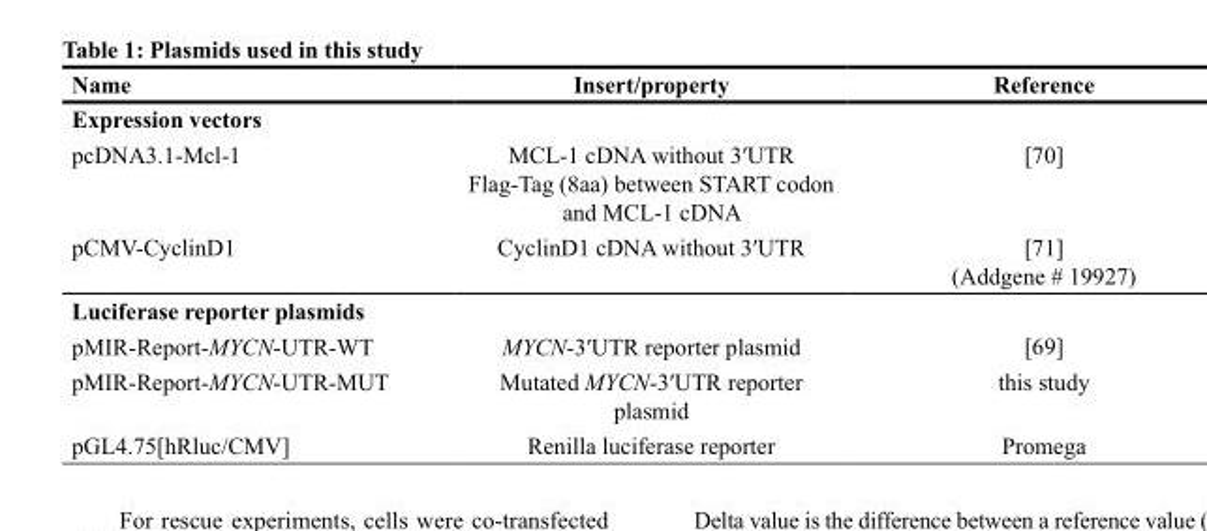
<table><thead><tr><td>Name</td><td>Insert/property</td><td>Reference</td></tr></thead><tbody><tr><td colspan="3">Expression vectors</td></tr><tr><td>pcDNA3.1-Mcl-1</td><td>MCL-1 cDNA without 3′UTR Flag-Tag (8aa) between START codon and MCL-1 cDNA</td><td>[70]</td></tr><tr><td>pCMV-CyclinD1</td><td>CyclinD1 cDNA without 3′UTR</td><td>[71] (Addgene # 19927)</td></tr><tr><td colspan="3">Luciferase reporter plasmids</td></tr><tr><td>pMIR-Report-MYCN-UTR-WT</td><td>MYCN-3′UTR reporter plasmid</td><td>[69]</td></tr><tr><td>pMIR-Report-MYCN-UTR-MUT</td><td>Mutated MYCN-3′UTR reporter plasmid</td><td>this study</td></tr><tr><td>pGL4.75[hRluc/CMV]</td><td>Renilla luciferase reporter</td><td>Promega</td></tr></tbody></table>